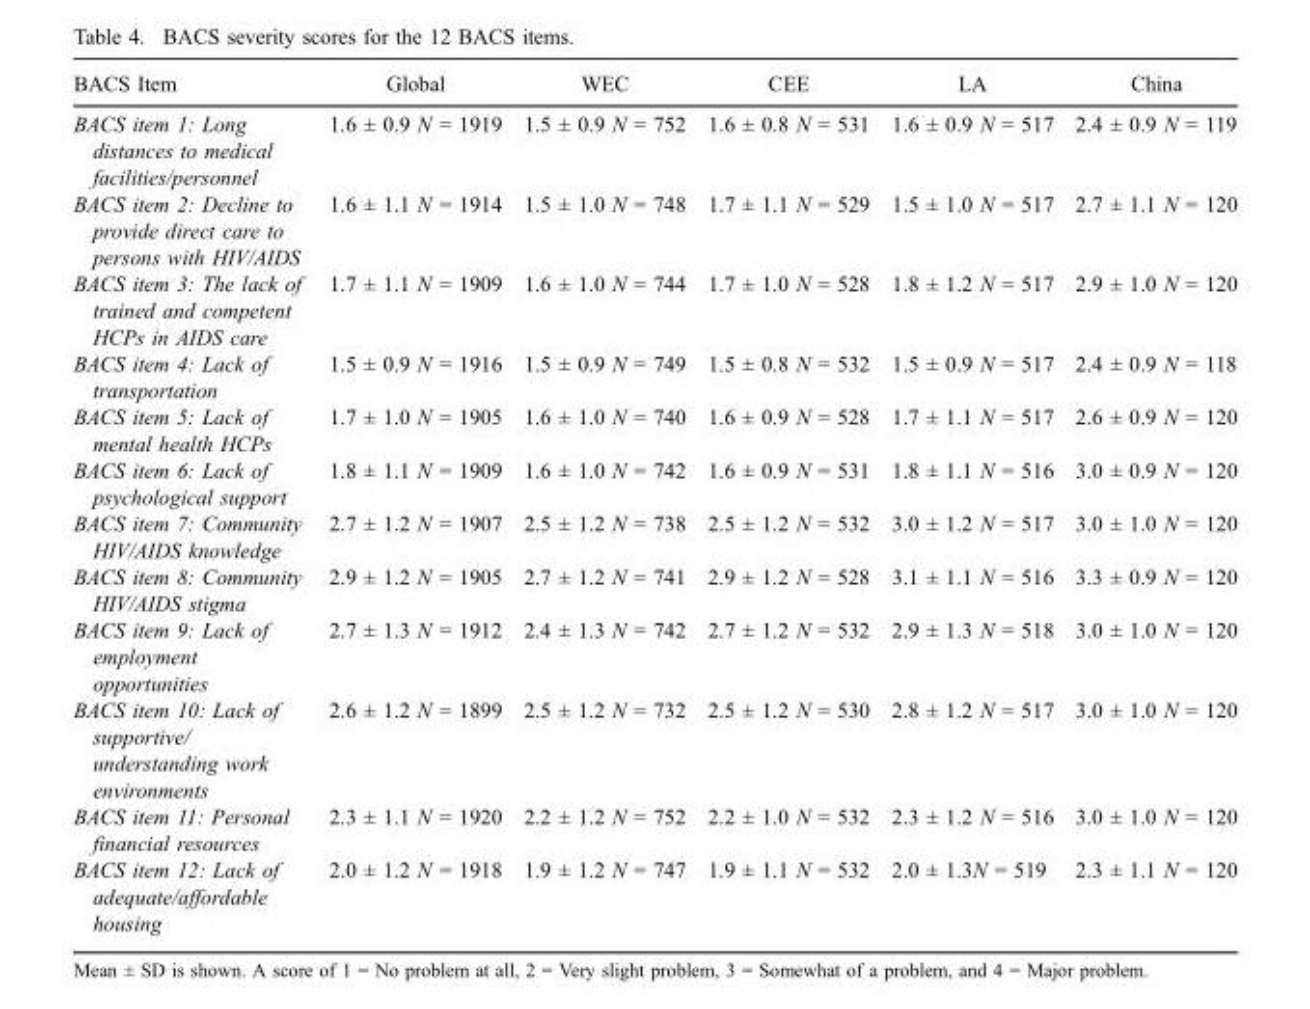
<table><thead><tr><td>BACS Item</td><td>Global</td><td>WEC</td><td>CEE</td><td>LA</td><td>China</td></tr></thead><tbody><tr><td>BACS item 1: Long distances to medical facilities/personnel</td><td>1.6 ± 0.9 N = 1919</td><td>1.5 ± 0.9 N = 752</td><td>1.6 ± 0.8 N = 531</td><td>1.6 ± 0.9 N = 517</td><td>2.4 ± 0.9 N = 119</td></tr><tr><td>BACS item 2: Decline to provide direct care to persons with HIV/AIDS</td><td>1.6 ± 1.1 N = 1914</td><td>1.5 ± 1.0 N = 748</td><td>1.7 ± 1.1 N = 529</td><td>1.5 ± 1.0 N = 517</td><td>2.7 ± 1.1 N = 120</td></tr><tr><td>BACS item 3: The lack of trained and competent HCPs in AIDS care</td><td>1.7 ± 1.1 N = 1909</td><td>1.6 ± 1.0 N = 744</td><td>1.7 ± 1.0 N = 528</td><td>1.8 ± 1.2 N = 517</td><td>2.9 ± 1.0 N = 120</td></tr><tr><td>BACS item 4: Lack of transportation</td><td>1.5 ± 0.9 N = 1916</td><td>1.5 ± 0.9 N = 749</td><td>1.5 ± 0.8 N = 532</td><td>1.5 ± 0.9 N = 517</td><td>2.4 ± 0.9 N = 118</td></tr><tr><td>BACS item 5: Lack of mental health HCPs</td><td>1.7 ± 1.0 N = 1905</td><td>1.6 ± 1.0 N = 740</td><td>1.6 ± 0.9 N = 528</td><td>1.7 ± 1.1 N = 517</td><td>2.6 ± 0.9 N = 120</td></tr><tr><td>BACS item 6: Lack of psychological support</td><td>1.8 ± 1.1 N = 1909</td><td>1.6 ± 1.0 N = 742</td><td>1.6 ± 0.9 N = 531</td><td>1.8 ± 1.1 N = 516</td><td>3.0 ± 0.9 N = 120</td></tr><tr><td>BACS item 7: Community HIV/AIDS knowledge</td><td>2.7 ± 1.2 N = 1907</td><td>2.5 ± 1.2 N = 738</td><td>2.5 ± 1.2 N = 532</td><td>3.0 ± 1.2 N = 517</td><td>3.0 ± 1.0 N = 120</td></tr><tr><td>BACS item 8: Community HIV/AIDS stigma</td><td>2.9 ± 1.2 N = 1905</td><td>2.7 ± 1.2 N = 741</td><td>2.9 ± 1.2 N = 528</td><td>3.1 ± 1.1 N = 516</td><td>3.3 ± 0.9 N = 120</td></tr><tr><td>BACS item 9: Lack of employment opportunities</td><td>2.7 ± 1.3 N = 1912</td><td>2.4 ± 1.3 N = 742</td><td>2.7 ± 1.2 N = 532</td><td>2.9 ± 1.3 N = 518</td><td>3.0 ± 1.0 N = 120</td></tr><tr><td>BACS item 10: Lack of supportive/ understanding work environments</td><td>2.6 ± 1.2 N = 1899</td><td>2.5 ± 1.2 N = 732</td><td>2.5 ± 1.2 N = 530</td><td>2.8 ± 1.2 N = 517</td><td>3.0 ± 1.0 N = 120</td></tr><tr><td>BACS item 11: Personal financial resources</td><td>2.3 ± 1.1 N = 1920</td><td>2.2 ± 1.2 N = 752</td><td>2.2 ± 1.0 N = 532</td><td>2.3 ± 1.2 N = 516</td><td>3.0 ± 1.0 N = 120</td></tr><tr><td>BACS item 12: Lack of adequate/affordable housing</td><td>2.0 ± 1.2 N = 1918</td><td>1.9 ± 1.2 N = 747</td><td>1.9 ± 1.1 N = 532</td><td>2.0 ± 1.3N = 519</td><td>2.3 ± 1.1 N = 120</td></tr></tbody></table>